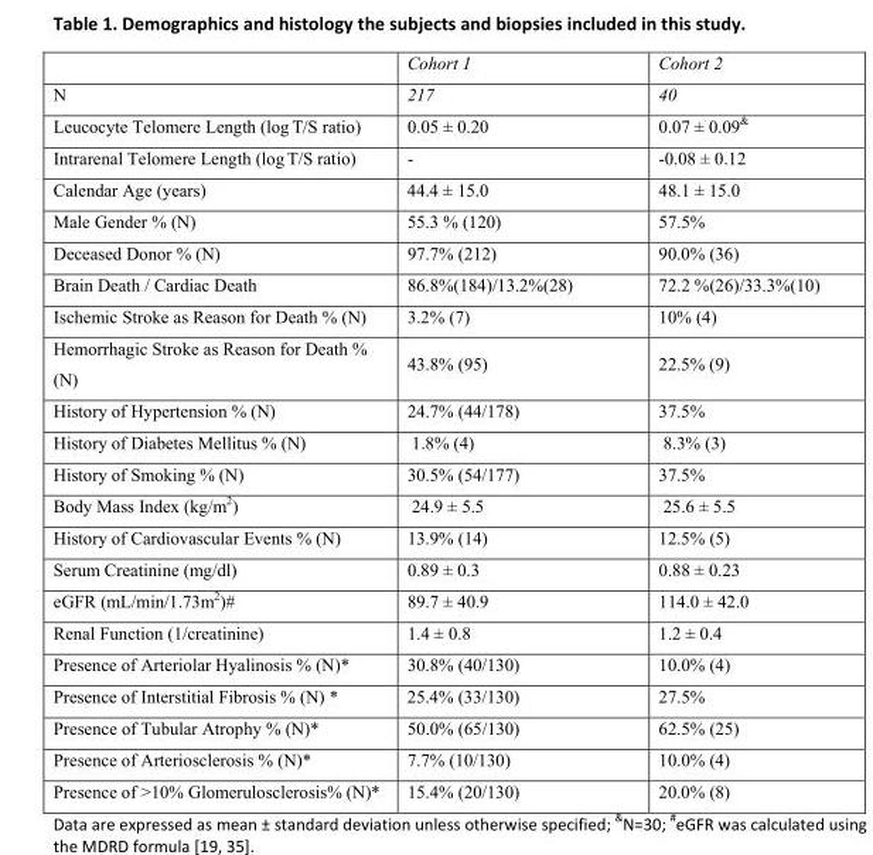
<table><thead><tr><td></td><td>Cohort 1</td><td>Cohort 2</td></tr></thead><tbody><tr><td>N</td><td>217</td><td>40</td></tr><tr><td>Leucocyte Telomere Length (log T/S ratio)</td><td>0.05 ± 0.20</td><td>0.07 ± 0.09<sup>&amp;</sup></td></tr><tr><td>Intrarenal Telomere Length (log T/S ratio)</td><td>-</td><td>-0.08 ± 0.12</td></tr><tr><td>Calendar Age (years)</td><td>44.4 ± 15.0</td><td>48.1 ± 15.0</td></tr><tr><td>Male Gender % (N)</td><td>55.3 % (120)</td><td>57.5%</td></tr><tr><td>Deceased Donor % (N)</td><td>97.7% (212)</td><td>90.0% (36)</td></tr><tr><td>Brain Death / Cardiac Death</td><td>86.8%(184)/13.2%(28)</td><td>72.2 %(26)/33.3%(10)</td></tr><tr><td>Ischemic Stroke as Reason for Death % (N)</td><td>3.2% (7)</td><td>10% (4)</td></tr><tr><td>Hemorrhagic Stroke as Reason for Death % (N)</td><td>43.8% (95)</td><td>22.5% (9)</td></tr><tr><td>History of Hypertension % (N)</td><td>24.7% (44/178)</td><td>37.5%</td></tr><tr><td>History of Diabetes Mellitus % (N)</td><td>1.8% (4)</td><td>8.3% (3)</td></tr><tr><td>History of Smoking % (N)</td><td>30.5% (54/177)</td><td>37.5%</td></tr><tr><td>Body Mass Index (kg/m2)</td><td>24.9 ± 5.5</td><td>25.6 ± 5.5</td></tr><tr><td>History of Cardiovascular Events % (N)</td><td>13.9% (14)</td><td>12.5% (5)</td></tr><tr><td>Serum Creatinine (mg/dl)</td><td>0.89 ± 0.3</td><td>0.88 ± 0.23</td></tr><tr><td>eGFR (mL/min/1.73m<sup>2</sup>)#</td><td>89.7 ± 40.9</td><td>114.0 ± 42.0</td></tr><tr><td>Renal Function (1/creatinine)</td><td>1.4 ± 0.8</td><td>1.2 ± 0.4</td></tr><tr><td>Presence of Arteriolar Hyalinosis % (N)*</td><td>30.8% (40/130)</td><td>10.0% (4)</td></tr><tr><td>Presence of Interstitial Fibrosis % (N) *</td><td>25.4% (33/130)</td><td>27.5%</td></tr><tr><td>Presence of Tubular Atrophy % (N)*</td><td>50.0% (65/130)</td><td>62.5% (25)</td></tr><tr><td>Presence of Arteriosclerosis % (N)*</td><td>7.7% (10/130)</td><td>10.0% (4)</td></tr><tr><td>Presence of &gt;10% Glomerulosclerosis% (N)*</td><td>15.4% (20/130)</td><td>20.0% (8)</td></tr></tbody></table>